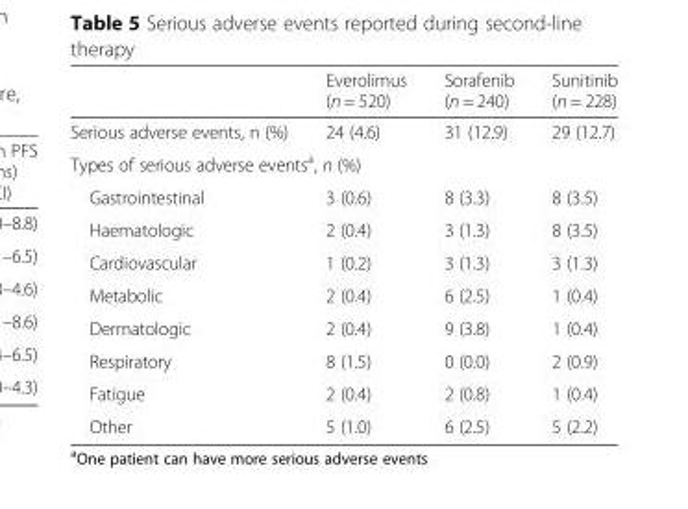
<table><thead><tr><td></td><td>Everolimus (n = 520)</td><td>Sorafenib (n = 240)</td><td>Sunitinib (n = 228)</td></tr></thead><tbody><tr><td>Serious adverse events, n (%)</td><td>24 (4.6)</td><td>31 (12.9)</td><td>29 (12.7)</td></tr><tr><td colspan="4">Types of serious adverse events<sup>a</sup>, n (%)</td></tr><tr><td>Gastrointestinal</td><td>3 (0.6)</td><td>8 (3.3)</td><td>8 (3.5)</td></tr><tr><td>Haematologic</td><td>2 (0.4)</td><td>3 (1.3)</td><td>8 (3.5)</td></tr><tr><td>Cardiovascular</td><td>1 (0.2)</td><td>3 (1.3)</td><td>3 (1.3)</td></tr><tr><td>Metabolic</td><td>2 (0.4)</td><td>6 (2.5)</td><td>1 (0.4)</td></tr><tr><td>Dermatologic</td><td>2 (0.4)</td><td>9 (3.8)</td><td>1 (0.4)</td></tr><tr><td>Respiratory</td><td>8 (1.5)</td><td>0 (0.0)</td><td>2 (0.9)</td></tr><tr><td>Fatigue</td><td>2 (0.4)</td><td>2 (0.8)</td><td>1 (0.4)</td></tr><tr><td>Other</td><td>5 (1.0)</td><td>6 (2.5)</td><td>5 (2.2)</td></tr></tbody></table>